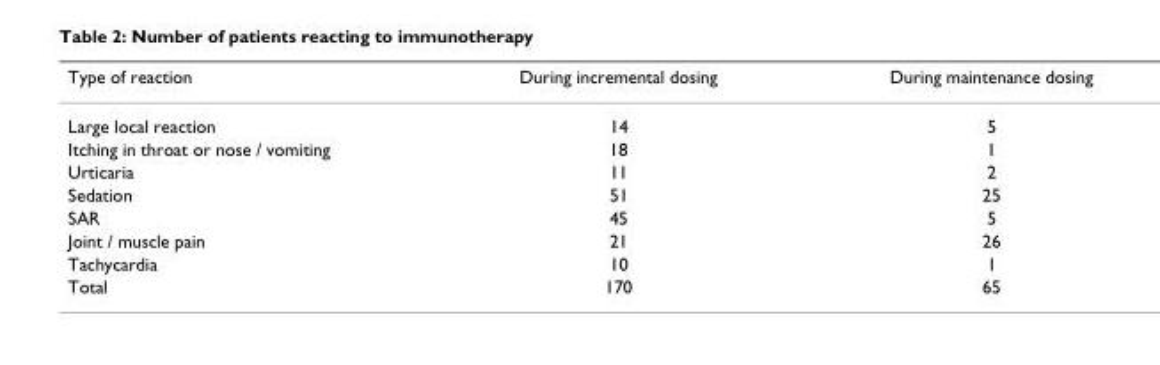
<table><thead><tr><td>Type of reaction</td><td>During incremental dosing</td><td>During maintenance dosing</td></tr></thead><tbody><tr><td>Large local reaction</td><td>14</td><td>5</td></tr><tr><td>Itching in throat or nose / vomiting</td><td>18</td><td>1</td></tr><tr><td>Urticaria</td><td>11</td><td>2</td></tr><tr><td>Sedation</td><td>51</td><td>25</td></tr><tr><td>SAR</td><td>45</td><td>5</td></tr><tr><td>Joint / muscle pain</td><td>21</td><td>26</td></tr><tr><td>Tachycardia</td><td>10</td><td>1</td></tr><tr><td>Total</td><td>170</td><td>65</td></tr></tbody></table>